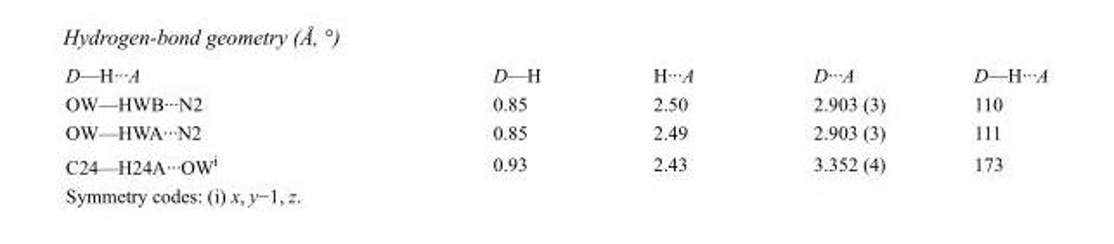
<table><tbody><tr><td>D—H···A</td><td>D—H</td><td>H···A</td><td>D···A</td><td>D—H···A</td></tr><tr><td>OW—HWB···N2</td><td>0.85</td><td>2.50</td><td>2.903 (3)</td><td>110</td></tr><tr><td>OW—HWA···N2</td><td>0.85</td><td>2.49</td><td>2.903 (3)</td><td>111</td></tr><tr><td>C24—H24A···OW<sup>i</sup></td><td>0.93</td><td>2.43</td><td>3.352 (4)</td><td>173</td></tr></tbody></table>